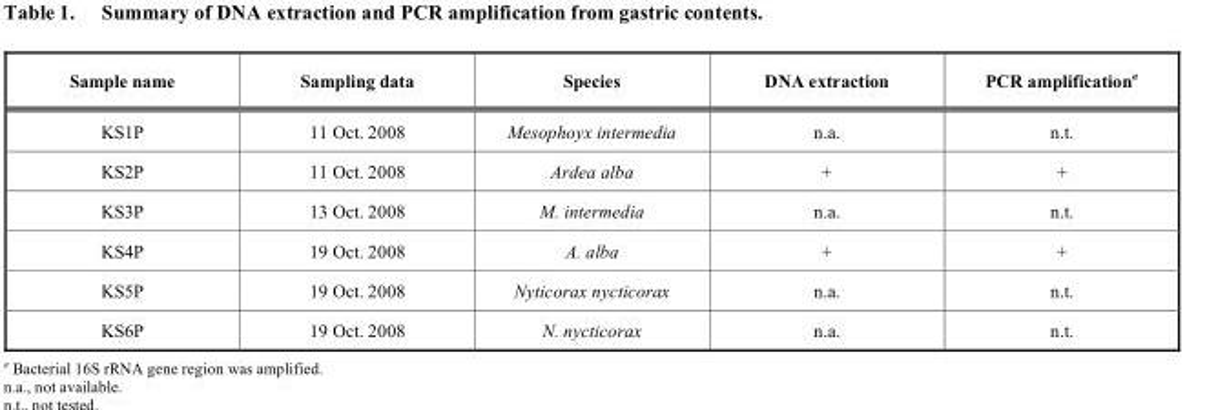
<table><thead><tr><td>Sample name</td><td>Sampling data</td><td>Species</td><td>DNA extraction</td><td>PCR amplificationa</td></tr></thead><tbody><tr><td>KS1P</td><td>11 Oct. 2008</td><td>Mesophoyx intermedia</td><td>n.a.</td><td>n.t.</td></tr><tr><td>KS2P</td><td>11 Oct. 2008</td><td>Ardea alba</td><td>+</td><td>+</td></tr><tr><td>KS3P</td><td>13 Oct. 2008</td><td>M. intermedia</td><td>n.a.</td><td>n.t.</td></tr><tr><td>KS4P</td><td>19 Oct. 2008</td><td>A. alba</td><td>+</td><td>+</td></tr><tr><td>KS5P</td><td>19 Oct. 2008</td><td>Nyticorax nycticorax</td><td>n.a.</td><td>n.t.</td></tr><tr><td>KS6P</td><td>19 Oct. 2008</td><td>N. nycticorax</td><td>n.a.</td><td>n.t.</td></tr></tbody></table>